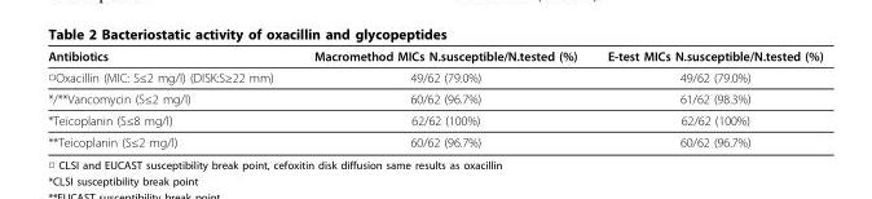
<table><thead><tr><td>Antibiotics</td><td>Macromethod MICs N.susceptible/N.tested (%)</td><td>E-test MICs N.susceptible/N.tested (%)</td></tr></thead><tbody><tr><td>□Oxacillin (MIC: S≤2 mg/l) (DISK:S≥22 mm)</td><td>49/62 (79.0%)</td><td>49/62 (79.0%)</td></tr><tr><td>*/**Vancomycin (S≤2 mg/l)</td><td>60/62 (96.7%)</td><td>61/62 (98.3%)</td></tr><tr><td>*Teicoplanin (S≤8 mg/l)</td><td>62/62 (100%)</td><td>62/62 (100%)</td></tr><tr><td>**Teicoplanin (S≤2 mg/l)</td><td>60/62 (96.7%)</td><td>60/62 (96.7%)</td></tr></tbody></table>